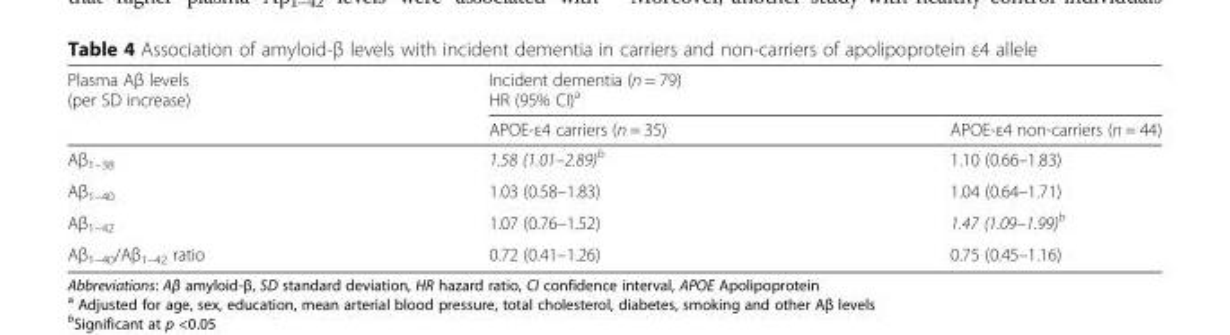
<table><thead><tr><td rowspan="2">Plasma Aβ levels (per SD increase)</td><td colspan="2">Incident dementia (n = 79) HR (95% CI)<sup>a</sup></td></tr><tr><td>APOE-ε4 carriers (n = 35)</td><td>APOE-ε4 non-carriers (n = 44)</td></tr></thead><tbody><tr><td>Aβ<sub>1–38</sub></td><td>1.58 (1.01–2.89)<sup>b</sup></td><td>1.10 (0.66–1.83)</td></tr><tr><td>Aβ<sub>1–40</sub></td><td>1.03 (0.58–1.83)</td><td>1.04 (0.64–1.71)</td></tr><tr><td>Aβ<sub>1–42</sub></td><td>1.07 (0.76–1.52)</td><td>1.47 (1.09–1.99)<sup>b</sup></td></tr><tr><td>Aβ<sub>1–40</sub>/Aβ<sub>1–42</sub> ratio</td><td>0.72 (0.41–1.26)</td><td>0.75 (0.45–1.16)</td></tr></tbody></table>